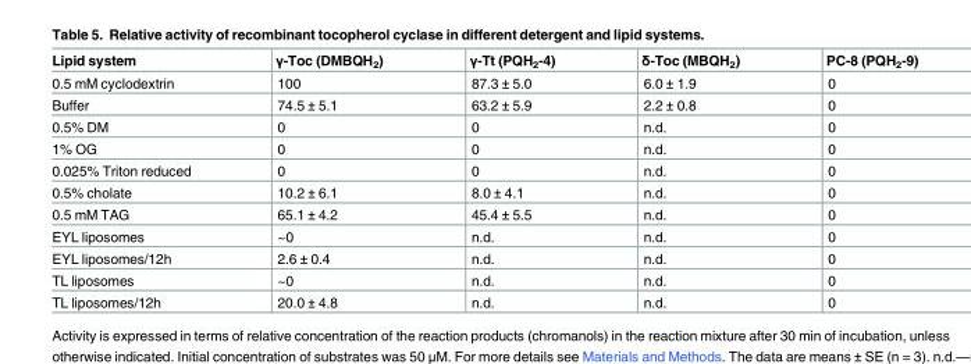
<table><thead><tr><td>Lipid system</td><td>γ-Toc (DMBQH<sub>2</sub>)</td><td>γ-Tt (PQH<sub>2</sub>-4)</td><td>δ-Toc (MBQH<sub>2</sub>)</td><td>PC-8 (PQH<sub>2</sub>-9)</td></tr></thead><tbody><tr><td>0.5 mM cyclodextrin</td><td>100</td><td>87.3 ± 5.0</td><td>6.0 ± 1.9</td><td>0</td></tr><tr><td>Buffer</td><td>74.5 ± 5.1</td><td>63.2 ± 5.9</td><td>2.2 ± 0.8</td><td>0</td></tr><tr><td>0.5% DM</td><td>0</td><td>0</td><td>n.d.</td><td>0</td></tr><tr><td>1% OG</td><td>0</td><td>0</td><td>n.d.</td><td>0</td></tr><tr><td>0.025% Triton reduced</td><td>0</td><td>0</td><td>n.d.</td><td>0</td></tr><tr><td>0.5% cholate</td><td>10.2 ± 6.1</td><td>8.0 ± 4.1</td><td>n.d.</td><td>0</td></tr><tr><td>0.5 mM TAG</td><td>65.1 ± 4.2</td><td>45.4 ± 5.5</td><td>n.d.</td><td>0</td></tr><tr><td>EYL liposomes</td><td>~0</td><td>n.d.</td><td>n.d.</td><td>0</td></tr><tr><td>EYL liposomes/12h</td><td>2.6 ± 0.4</td><td>n.d.</td><td>n.d.</td><td>0</td></tr><tr><td>TL liposomes</td><td>~0</td><td>n.d.</td><td>n.d.</td><td>0</td></tr><tr><td>TL liposomes/12h</td><td>20.0 ± 4.8</td><td>n.d.</td><td>n.d.</td><td>0</td></tr></tbody></table>